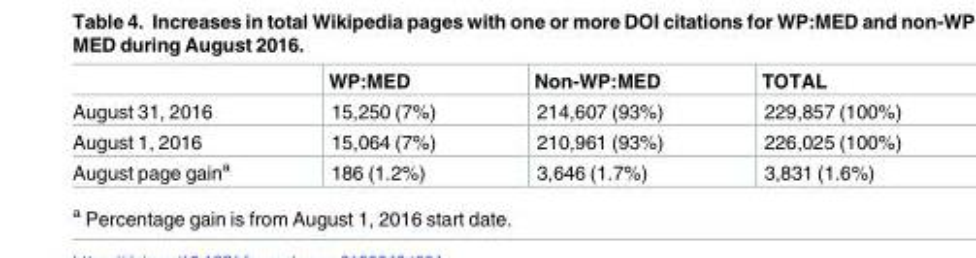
<table><thead><tr><td></td><td>WP:MED</td><td>Non-WP:MED</td><td>TOTAL</td></tr></thead><tbody><tr><td>August 31, 2016</td><td>15,250 (7%)</td><td>214,607 (93%)</td><td>229,857 (100%)</td></tr><tr><td>August 1, 2016</td><td>15,064 (7%)</td><td>210,961 (93%)</td><td>226,025 (100%)</td></tr><tr><td>August page gain<sup>a</sup></td><td>186 (1.2%)</td><td>3,646 (1.7%)</td><td>3,831 (1.6%)</td></tr></tbody></table>